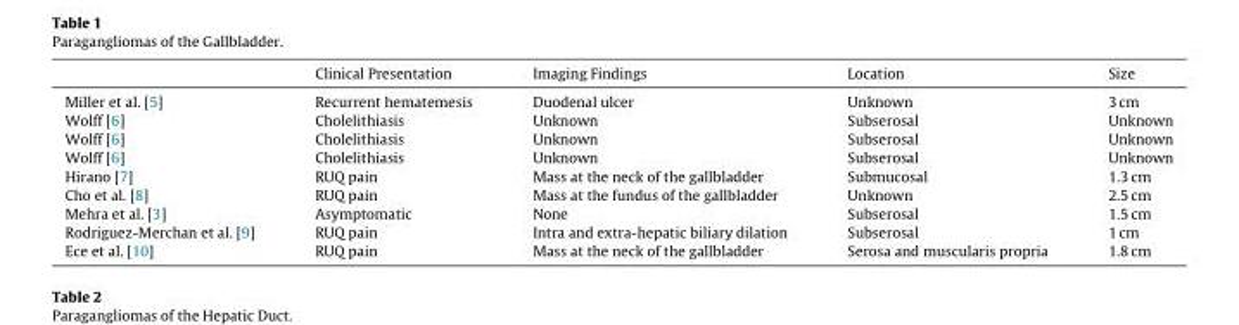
<table><thead><tr><td></td><td>Clinical Presentation</td><td>Imaging Findings</td><td>Location</td><td>Size</td></tr></thead><tbody><tr><td>Miller et al. [5]</td><td>Recurrent hematemesis</td><td>Duodenal ulcer</td><td>Unknown</td><td>3 cm</td></tr><tr><td>Wolff [6]</td><td>Cholelithiasis</td><td>Unknown</td><td>Subserosal</td><td>Unknown</td></tr><tr><td>Wolff [6]</td><td>Cholelithiasis</td><td>Unknown</td><td>Subserosal</td><td>Unknown</td></tr><tr><td>Wolff [6]</td><td>Cholelithiasis</td><td>Unknown</td><td>Subserosal</td><td>Unknown</td></tr><tr><td>Hirano [7]</td><td>RUQ pain</td><td>Mass at the neck of the gallbladder</td><td>Submucosal</td><td>1.3 cm</td></tr><tr><td>Cho et al. [8]</td><td>RUQ pain</td><td>Mass at the fundus of the gallbladder</td><td>Unknown</td><td>2.5 cm</td></tr><tr><td>Mehra et al. [3]</td><td>Asymptomatic</td><td>None</td><td>Subserosal</td><td>1.5 cm</td></tr><tr><td>Rodriguez-Merchan et al. [9]</td><td>RUQ pain</td><td>Intra and extra-hepatic biliary dilation</td><td>Subserosal</td><td>1 cm</td></tr><tr><td>Ece et al. [10]</td><td>RUQ pain</td><td>Mass at the neck of the gallbladder</td><td>Serosa and muscularis propria</td><td>1.8 cm</td></tr></tbody></table>